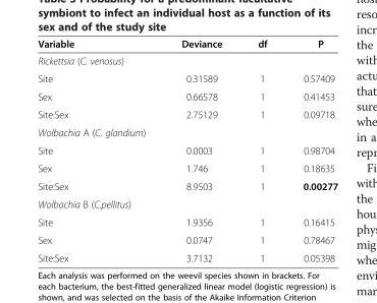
<table><thead><tr><td>Variable</td><td>Deviance</td><td>df</td><td>P</td></tr></thead><tbody><tr><td colspan="4">Rickettsia (C. venosus)</td></tr><tr><td>Site</td><td>0.31589</td><td>1</td><td>0.57409</td></tr><tr><td>Sex</td><td>0.66578</td><td>1</td><td>0.41453</td></tr><tr><td>Site:Sex</td><td>2.75129</td><td>1</td><td>0.09718</td></tr><tr><td colspan="4">Wolbachia A (C. glandium)</td></tr><tr><td>Site</td><td>0.0003</td><td>1</td><td>0.98704</td></tr><tr><td>Sex</td><td>1.746</td><td>1</td><td>0.18635</td></tr><tr><td>Site:Sex</td><td>8.9503</td><td>1</td><td>0.00277</td></tr><tr><td colspan="4">Wolbachia B (C.pellitus)</td></tr><tr><td>Site</td><td>1.9356</td><td>1</td><td>0.16415</td></tr><tr><td>Sex</td><td>0.0747</td><td>1</td><td>0.78467</td></tr><tr><td>Site:Sex</td><td>3.7132</td><td>1</td><td>0.05398</td></tr></tbody></table>